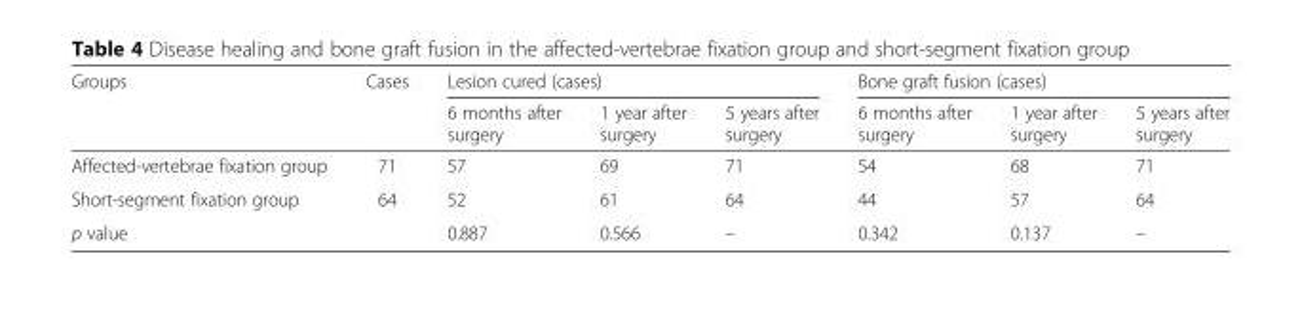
<table><thead><tr><td rowspan="2">Groups</td><td rowspan="2">Cases</td><td colspan="3">Lesion cured (cases)</td><td colspan="3">Bone graft fusion (cases)</td></tr><tr><td>6 months after surgery</td><td>1 year after surgery</td><td>5 years after surgery</td><td>6 months after surgery</td><td>1 year after surgery</td><td>5 years after surgery</td></tr></thead><tbody><tr><td>Affected-vertebrae fixation group</td><td>71</td><td>57</td><td>69</td><td>71</td><td>54</td><td>68</td><td>71</td></tr><tr><td>Short-segment fixation group</td><td>64</td><td>52</td><td>61</td><td>64</td><td>44</td><td>57</td><td>64</td></tr><tr><td>p value</td><td></td><td>0.887</td><td>0.566</td><td>–</td><td>0.342</td><td>0.137</td><td>–</td></tr></tbody></table>